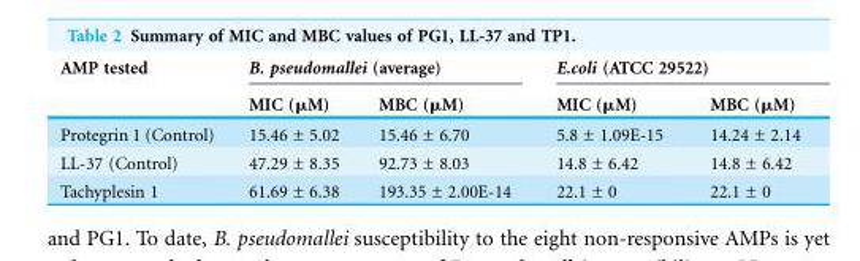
<table><thead><tr><td rowspan="2">AMP tested</td><td colspan="2">B. pseudomallei (average)</td><td colspan="2">E.coli (ATCC 29522)</td></tr><tr><td>MIC (μM)</td><td>MBC (μM)</td><td>MIC (μM)</td><td>MBC (μM)</td></tr></thead><tbody><tr><td>Protegrin 1 (Control)</td><td>15.46 ± 5.02</td><td>15.46 ± 6.70</td><td>5.8 ± 1.09E-15</td><td>14.24 ± 2.14</td></tr><tr><td>LL-37 (Control)</td><td>47.29 ± 8.35</td><td>92.73 ± 8.03</td><td>14.8 ± 6.42</td><td>14.8 ± 6.42</td></tr><tr><td>Tachyplesin 1</td><td>61.69 ± 6.38</td><td>193.35 ± 2.00E-14</td><td>22.1 ± 0</td><td>22.1 ± 0</td></tr></tbody></table>